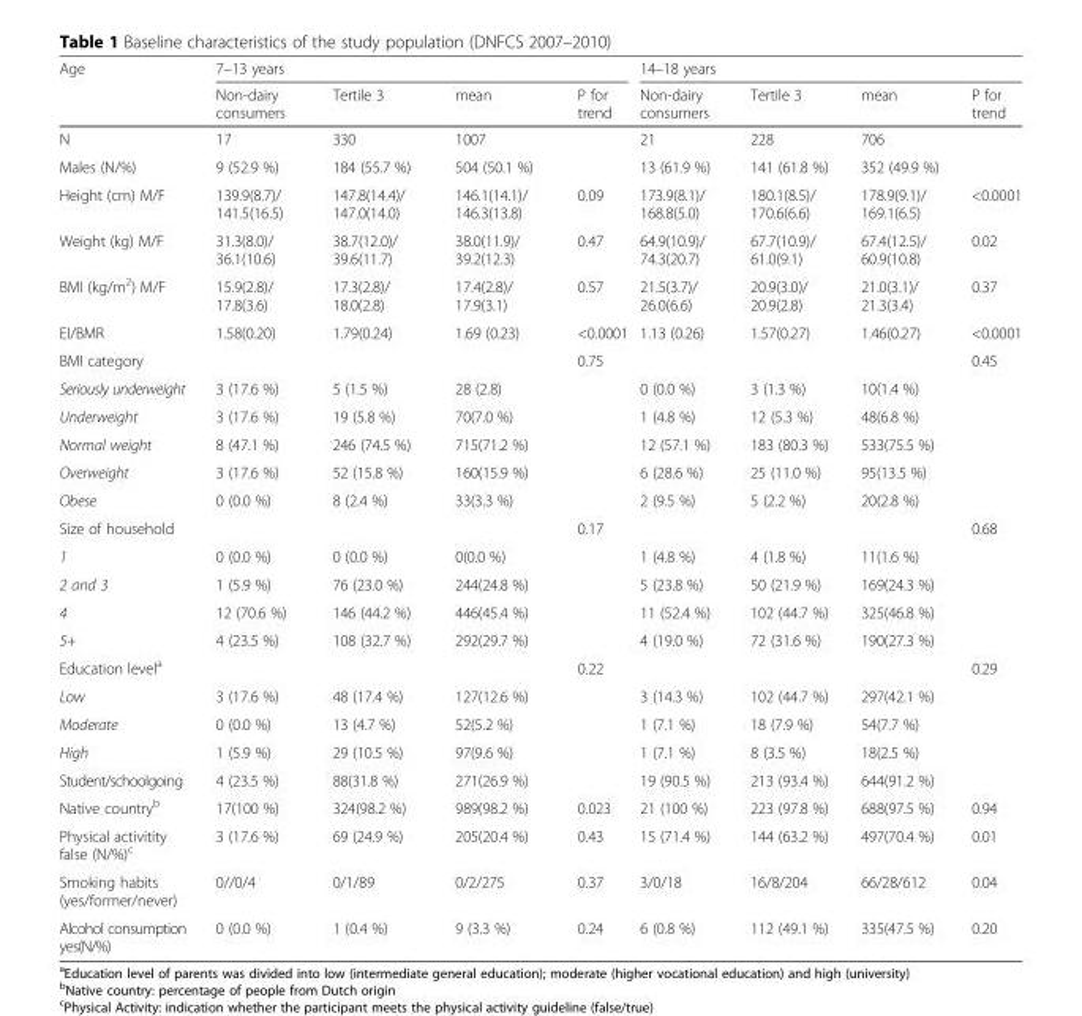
<table><thead><tr><td rowspan="2">Age</td><td colspan="4">7–13 years</td><td colspan="4">14–18 years</td></tr><tr><td>Non-dairy consumers</td><td>Tertile 3</td><td>mean</td><td>P for trend</td><td>Non-dairy consumers</td><td>Tertile 3</td><td>mean</td><td>P for trend</td></tr></thead><tbody><tr><td>N</td><td>17</td><td>330</td><td>1007</td><td></td><td>21</td><td>228</td><td>706</td><td></td></tr><tr><td>Males (N/%)</td><td>9 (52.9 %)</td><td>184 (55.7 %)</td><td>504 (50.1 %)</td><td></td><td>13 (61.9 %)</td><td>141 (61.8 %)</td><td>352 (49.9 %)</td><td></td></tr><tr><td>Height (cm) M/F</td><td>139.9(8.7)/ 141.5(16.5)</td><td>147.8(14.4)/ 147.0(14.0)</td><td>146.1(14.1)/ 146.3(13.8)</td><td>0.09</td><td>173.9(8.1)/ 168.8(5.0)</td><td>180.1(8.5)/ 170.6(6.6)</td><td>178.9(9.1)/ 169.1(6.5)</td><td>&lt;0.0001</td></tr><tr><td>Weight (kg) M/F</td><td>31.3(8.0)/ 36.1(10.6)</td><td>38.7(12.0)/ 39.6(11.7)</td><td>38.0(11.9)/ 39.2(12.3)</td><td>0.47</td><td>64.9(10.9)/ 74.3(20.7)</td><td>67.7(10.9)/ 61.0(9.1)</td><td>67.4(12.5)/ 60.9(10.8)</td><td>0.02</td></tr><tr><td>BMI (kg/m<sup>2</sup>) M/F</td><td>15.9(2.8)/ 17.8(3.6)</td><td>17.3(2.8)/ 18.0(2.8)</td><td>17.4(2.8)/ 17.9(3.1)</td><td>0.57</td><td>21.5(3.7)/ 26.0(6.6)</td><td>20.9(3.0)/ 20.9(2.8)</td><td>21.0(3.1)/ 21.3(3.4)</td><td>0.37</td></tr><tr><td>EI/BMR</td><td>1.58(0.20)</td><td>1.79(0.24)</td><td>1.69 (0.23)</td><td>&lt;0.0001</td><td>1.13 (0.26)</td><td>1.57(0.27)</td><td>1.46(0.27)</td><td>&lt;0.0001</td></tr><tr><td>BMI category</td><td></td><td></td><td></td><td>0.75</td><td></td><td></td><td></td><td>0.45</td></tr><tr><td>Seriously underweight</td><td>3 (17.6 %)</td><td>5 (1.5 %)</td><td>28 (2.8)</td><td></td><td>0 (0.0 %)</td><td>3 (1.3 %)</td><td>10(1.4 %)</td><td></td></tr><tr><td>Underweight</td><td>3 (17.6 %)</td><td>19 (5.8 %)</td><td>70(7.0 %)</td><td></td><td>1 (4.8 %)</td><td>12 (5.3 %)</td><td>48(6.8 %)</td><td></td></tr><tr><td>Normal weight</td><td>8 (47.1 %)</td><td>246 (74.5 %)</td><td>715(71.2 %)</td><td></td><td>12 (57.1 %)</td><td>183 (80.3 %)</td><td>533(75.5 %)</td><td></td></tr><tr><td>Overweight</td><td>3 (17.6 %)</td><td>52 (15.8 %)</td><td>160(15.9 %)</td><td></td><td>6 (28.6 %)</td><td>25 (11.0 %)</td><td>95(13.5 %)</td><td></td></tr><tr><td>Obese</td><td>0 (0.0 %)</td><td>8 (2.4 %)</td><td>33(3.3 %)</td><td></td><td>2 (9.5 %)</td><td>5 (2.2 %)</td><td>20(2.8 %)</td><td></td></tr><tr><td>Size of household</td><td></td><td></td><td></td><td>0.17</td><td></td><td></td><td></td><td>0.68</td></tr><tr><td>1</td><td>0 (0.0 %)</td><td>0 (0.0 %)</td><td>0(0.0 %)</td><td></td><td>1 (4.8 %)</td><td>4 (1.8 %)</td><td>11(1.6 %)</td><td></td></tr><tr><td>2 and 3</td><td>1 (5.9 %)</td><td>76 (23.0 %)</td><td>244(24.8 %)</td><td></td><td>5 (23.8 %)</td><td>50 (21.9 %)</td><td>169(24.3 %)</td><td></td></tr><tr><td>4</td><td>12 (70.6 %)</td><td>146 (44.2 %)</td><td>446(45.4 %)</td><td></td><td>11 (52.4 %)</td><td>102 (44.7 %)</td><td>325(46.8 %)</td><td></td></tr><tr><td>5+</td><td>4 (23.5 %)</td><td>108 (32.7 %)</td><td>292(29.7 %)</td><td></td><td>4 (19.0 %)</td><td>72 (31.6 %)</td><td>190(27.3 %)</td><td></td></tr><tr><td>Education level<sup>a</sup></td><td></td><td></td><td></td><td>0.22</td><td></td><td></td><td></td><td>0.29</td></tr><tr><td>Low</td><td>3 (17.6 %)</td><td>48 (17.4 %)</td><td>127(12.6 %)</td><td></td><td>3 (14.3 %)</td><td>102 (44.7 %)</td><td>297(42.1 %)</td><td></td></tr><tr><td>Moderate</td><td>0 (0.0 %)</td><td>13 (4.7 %)</td><td>52(5.2 %)</td><td></td><td>1 (7.1 %)</td><td>18 (7.9 %)</td><td>54(7.7 %)</td><td></td></tr><tr><td>High</td><td>1 (5.9 %)</td><td>29 (10.5 %)</td><td>97(9.6 %)</td><td></td><td>1 (7.1 %)</td><td>8 (3.5 %)</td><td>18(2.5 %)</td><td></td></tr><tr><td>Student/schoolgoing</td><td>4 (23.5 %)</td><td>88(31.8 %)</td><td>271(26.9 %)</td><td></td><td>19 (90.5 %)</td><td>213 (93.4 %)</td><td>644(91.2 %)</td><td></td></tr><tr><td>Native country<sup>b</sup></td><td>17(100 %)</td><td>324(98.2 %)</td><td>989(98.2 %)</td><td>0.023</td><td>21 (100 %)</td><td>223 (97.8 %)</td><td>688(97.5 %)</td><td>0.94</td></tr><tr><td>Physical activitity false (N/%)<sup>c</sup></td><td>3 (17.6 %)</td><td>69 (24.9 %)</td><td>205(20.4 %)</td><td>0.43</td><td>15 (71.4 %)</td><td>144 (63.2 %)</td><td>497(70.4 %)</td><td>0.01</td></tr><tr><td>Smoking habits (yes/former/never)</td><td>0//0/4</td><td>0/1/89</td><td>0/2/275</td><td>0.37</td><td>3/0/18</td><td>16/8/204</td><td>66/28/612</td><td>0.04</td></tr><tr><td>Alcohol consumption yes(N/%)</td><td>0 (0.0 %)</td><td>1 (0.4 %)</td><td>9 (3.3 %)</td><td>0.24</td><td>6 (0.8 %)</td><td>112 (49.1 %)</td><td>335(47.5 %)</td><td>0.20</td></tr></tbody></table>